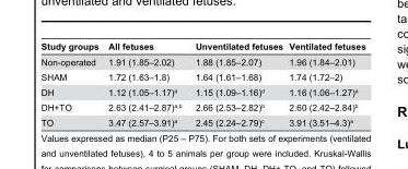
<table><thead><tr><td>Study groups</td><td>All fetuses</td><td>Unventilated fetuses</td><td>Ventilated fetuses</td></tr></thead><tbody><tr><td>Non-operated</td><td>1.91 (1.85–2.02)</td><td>1.88 (1.85–2.07)</td><td>1.96 (1.84–2.01)</td></tr><tr><td>SHAM</td><td>1.72 (1.63–1.8)</td><td>1.64 (1.61–1.68)</td><td>1.74 (1.72–2)</td></tr><tr><td>DH</td><td>1.12 (1.05–1.17)<sup>a</sup></td><td>1.15 (1.09–1.16)<sup>d</sup></td><td>1.16 (1.06–1.27)<sup>a</sup></td></tr><tr><td>DH+TO</td><td>2.63 (2.41–2.87)<sup>a,b</sup></td><td>2.66 (2.53–2.82)<sup>b</sup></td><td>2.60 (2.42–2.84)<sup>b</sup></td></tr><tr><td>TO</td><td>3.47 (2.57–3.91)<sup>a</sup></td><td>2.45 (2.24–2.79)<sup>c</sup></td><td>3.91 (3.51–4.3)<sup>a</sup></td></tr></tbody></table>